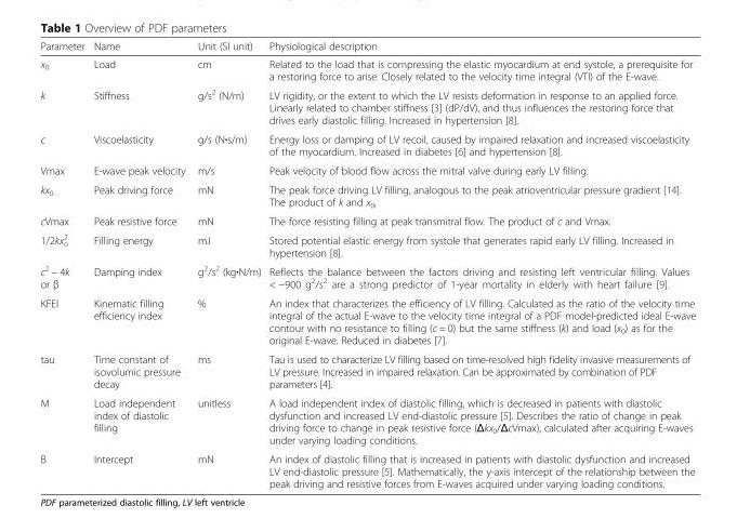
<table><thead><tr><td>Parameter</td><td>Name</td><td>Unit (SI unit)</td><td>Physiological description</td></tr></thead><tbody><tr><td>x<sub>0</sub></td><td>Load</td><td>cm</td><td>Related to the load that is compressing the elastic myocardium at end systole, a prerequisite for a restoring force to arise. Closely related to the velocity time integral (VTI) of the E-wave.</td></tr><tr><td>k</td><td>Stiffness</td><td>g/s<sup>2</sup> (N/m)</td><td>LV rigidity, or the extent to which the LV resists deformation in response to an applied force. Linearly related to chamber stiffness [3] (dP/dV), and thus influences the restoring force that drives early diastolic filling. Increased in hypertension [8].</td></tr><tr><td>c</td><td>Viscoelasticity</td><td>g/s (N∙s/m)</td><td>Energy loss or damping of LV recoil, caused by impaired relaxation and increased viscoelasticity of the myocardium. Increased in diabetes [6] and hypertension [8].</td></tr><tr><td>Vmax</td><td>E-wave peak velocity</td><td>m/s</td><td>Peak velocity of blood flow across the mitral valve during early LV filling.</td></tr><tr><td>kx<sub>0</sub></td><td>Peak driving force</td><td>mN</td><td>The peak force driving LV filling, analogous to the peak atrioventricular pressure gradient [14]. The product of k and x<sub>0</sub>,</td></tr><tr><td>cVmax</td><td>Peak resistive force</td><td>mN</td><td>The force resisting filling at peak transmitral flow. The product of c and Vmax.</td></tr><tr><td>1/2kx<sub>o</sub> <sup>2</sup></td><td>Filling energy</td><td>mJ</td><td>Stored potential elastic energy from systole that generates rapid early LV filling. Increased in hypertension [8].</td></tr><tr><td>c<sup>2</sup> − 4k or β</td><td>Damping index</td><td>g<sup>2</sup>/s<sup>2</sup> (kg∙N/m)</td><td>Reflects the balance between the factors driving and resisting left ventricular filling. Values &lt; −900 g<sup>2</sup>/s<sup>2</sup> are a strong predictor of 1-year mortality in elderly with heart failure [9].</td></tr><tr><td>KFEI</td><td>Kinematic filling efficiency index</td><td>%</td><td>An index that characterizes the efficiency of LV filling. Calculated as the ratio of the velocity time integral of the actual E-wave to the velocity time integral of a PDF model-predicted ideal E-wave contour with no resistance to filling (c = 0) but the same stiffness (k) and load (x<sub>0</sub>) as for the original E-wave. Reduced in diabetes [7].</td></tr><tr><td>tau</td><td>Time constant of isovolumic pressure decay</td><td>ms</td><td>Tau is used to characterize LV filling based on time-resolved high fidelity invasive measurements of LV pressure. Increased in impaired relaxation. Can be approximated by combination of PDF parameters [4].</td></tr><tr><td>M</td><td>Load independent index of diastolic filling</td><td>unitless</td><td>A load independent index of diastolic filling, which is decreased in patients with diastolic dysfunction and increased LV end-diastolic pressure [5]. Describes the ratio of change in peak driving force to change in peak resistive force (Δkx<sub>0</sub>/ΔcVmax), calculated after acquiring E-waves under varying loading conditions.</td></tr><tr><td>B</td><td>Intercept</td><td>mN</td><td>An index of diastolic filling that is increased in patients with diastolic dysfunction and increased LV end-diastolic pressure [5]. Mathematically, the y-axis intercept of the relationship between the peak driving and resistive forces from E-waves acquired under varying loading conditions.</td></tr></tbody></table>